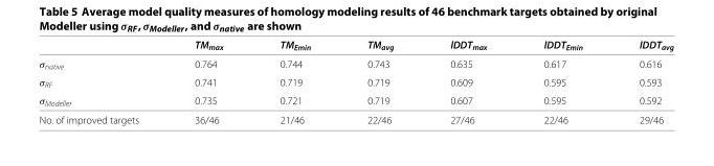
<table><thead><tr><td></td><td>TM<sub>max</sub></td><td>TM<sub>Emin</sub></td><td>TM<sub>avg</sub></td><td>lDDT<sub>max</sub></td><td>lDDT<sub>Emin</sub></td><td>lDDT<sub>avg</sub></td></tr></thead><tbody><tr><td>σ<sub>native</sub></td><td>0.764</td><td>0.744</td><td>0.743</td><td>0.635</td><td>0.617</td><td>0.616</td></tr><tr><td>σ<sub>RF</sub></td><td>0.741</td><td>0.719</td><td>0.719</td><td>0.609</td><td>0.595</td><td>0.593</td></tr><tr><td>σ<sub>Modeller</sub></td><td>0.735</td><td>0.721</td><td>0.719</td><td>0.607</td><td>0.595</td><td>0.592</td></tr><tr><td>No. of improved targets</td><td>36/46</td><td>21/46</td><td>22/46</td><td>27/46</td><td>22/46</td><td>29/46</td></tr></tbody></table>